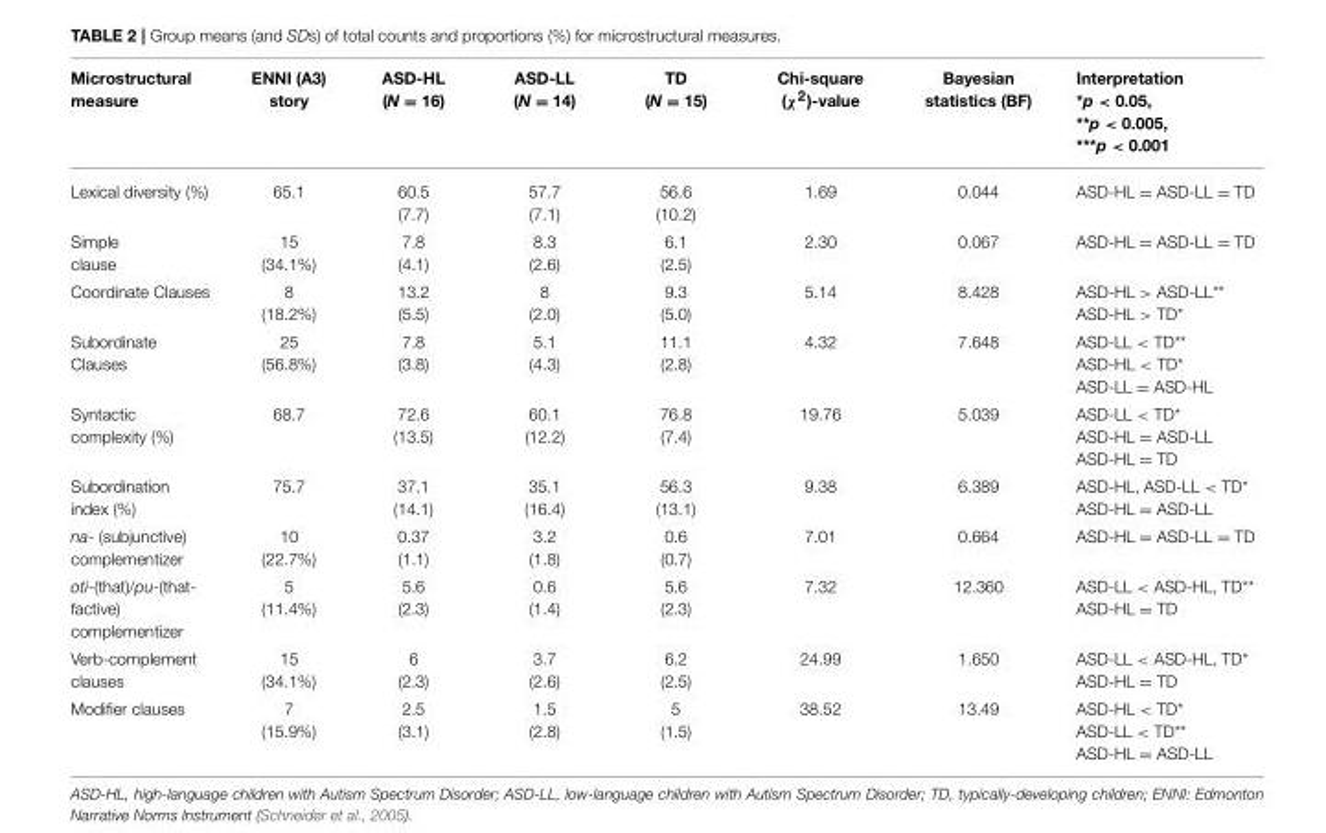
<table><thead><tr><td>Microstructural measure</td><td>ENNI (A3) story</td><td>ASD-HL (N = 16)</td><td>ASD-LL (N = 14)</td><td>TD (N = 15)</td><td>Chi-square (χ<sup>2</sup>)-value</td><td>Bayesian statistics (BF)</td><td>Interpretation *p &lt; 0.05, **p &lt; 0.005, ***p &lt; 0.001</td></tr></thead><tbody><tr><td>Lexical diversity (%)</td><td>65.1</td><td>60.5 (7.7)</td><td>57.7 (7.1)</td><td>56.6 (10.2)</td><td>1.69</td><td>0.044</td><td>ASD-HL = ASD-LL = TD</td></tr><tr><td>Simple clause</td><td>15 (34.1%)</td><td>7.8 (4.1)</td><td>8.3 (2.6)</td><td>6.1 (2.5)</td><td>2.30</td><td>0.067</td><td>ASD-HL = ASD-LL = TD</td></tr><tr><td>Coordinate Clauses</td><td>8 (18.2%)</td><td>13.2 (5.5)</td><td>8 (2.0)</td><td>9.3 (5.0)</td><td>5.14</td><td>8.428</td><td>ASD-HL &gt; ASD-LL** ASD-HL &gt; TD*</td></tr><tr><td>Subordinate Clauses</td><td>25 (56.8%)</td><td>7.8 (3.8)</td><td>5.1 (4.3)</td><td>11.1 (2.8)</td><td>4.32</td><td>7.648</td><td>ASD-LL &lt; TD** ASD-HL &lt; TD* ASD-LL = ASD-HL</td></tr><tr><td>Syntactic complexity (%)</td><td>68.7</td><td>72.6 (13.5)</td><td>60.1 (12.2)</td><td>76.8 (7.4)</td><td>19.76</td><td>5.039</td><td>ASD-LL &lt; TD* ASD-HL = ASD-LL ASD-HL = TD</td></tr><tr><td>Subordination index (%)</td><td>75.7</td><td>37.1 (14.1)</td><td>35.1 (16.4)</td><td>56.3 (13.1)</td><td>9.38</td><td>6.389</td><td>ASD-HL, ASD-LL &lt; TD* ASD-HL = ASD-LL</td></tr><tr><td>na- (subjunctive) complementizer</td><td>10 (22.7%)</td><td>0.37 (1.1)</td><td>3.2 (1.8)</td><td>0.6 (0.7)</td><td>7.01</td><td>0.664</td><td>ASD-HL = ASD-LL = TD</td></tr><tr><td>oti-(that)/pu-(that- factive) complementizer</td><td>5 (11.4%)</td><td>5.6 (2.3)</td><td>0.6 (1.4)</td><td>5.6 (2.3)</td><td>7.32</td><td>12.360</td><td>ASD-LL &lt; ASD-HL, TD** ASD-HL = TD</td></tr><tr><td>Verb-complement clauses</td><td>15 (34.1%)</td><td>6 (2.3)</td><td>3.7 (2.6)</td><td>6.2 (2.5)</td><td>24.99</td><td>1.650</td><td>ASD-LL &lt; ASD-HL, TD* ASD-HL = TD</td></tr><tr><td>Modifier clauses</td><td>7 (15.9%)</td><td>2.5 (3.1)</td><td>1.5 (2.8)</td><td>5 (1.5)</td><td>38.52</td><td>13.49</td><td>ASD-HL &lt; TD* ASD-LL &lt; TD** ASD-HL = ASD-LL</td></tr></tbody></table>